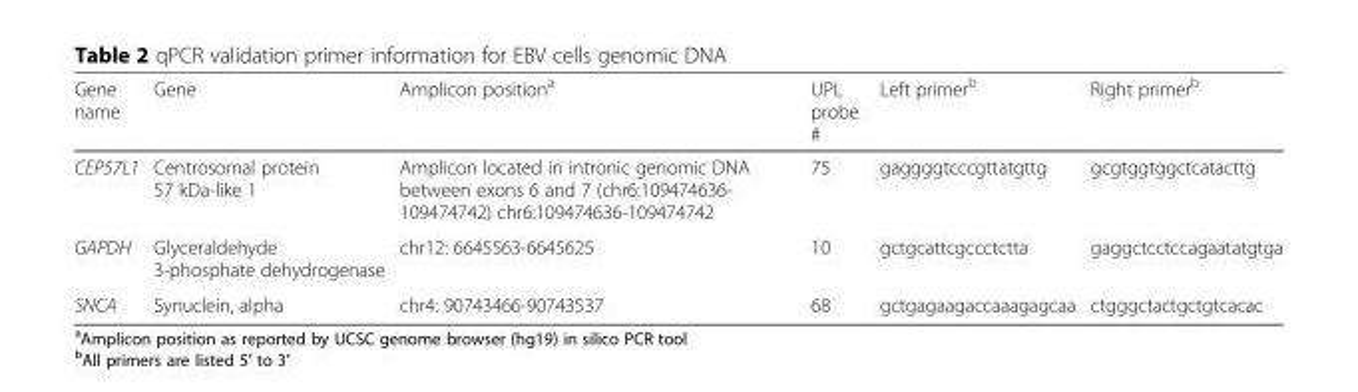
<table><thead><tr><td>Gene name</td><td>Gene</td><td>Amplicon position<sup>a</sup></td><td>UPL probe #</td><td>Left primer<sup>b</sup></td><td>Right primer<sup>b</sup></td></tr></thead><tbody><tr><td>CEP57L1</td><td>Centrosomal protein 57 kDa-like 1</td><td>Amplicon located in intronic genomic DNA between exons 6 and 7 (chr6:109474636- 109474742) chr6:109474636-109474742</td><td>75</td><td>gaggggtcccgttatgttg</td><td>gcgtggtggctcatacttg</td></tr><tr><td>GAPDH</td><td>Glyceraldehyde 3-phosphate dehydrogenase</td><td>chr12: 6645563-6645625</td><td>10</td><td>gctgcattcgccctctta</td><td>gaggctcctccagaatatgtga</td></tr><tr><td>SNCA</td><td>Synuclein, alpha</td><td>chr4: 90743466-90743537</td><td>68</td><td>gctgagaagaccaaagagcaa</td><td>ctgggctactgctgtcacac</td></tr></tbody></table>